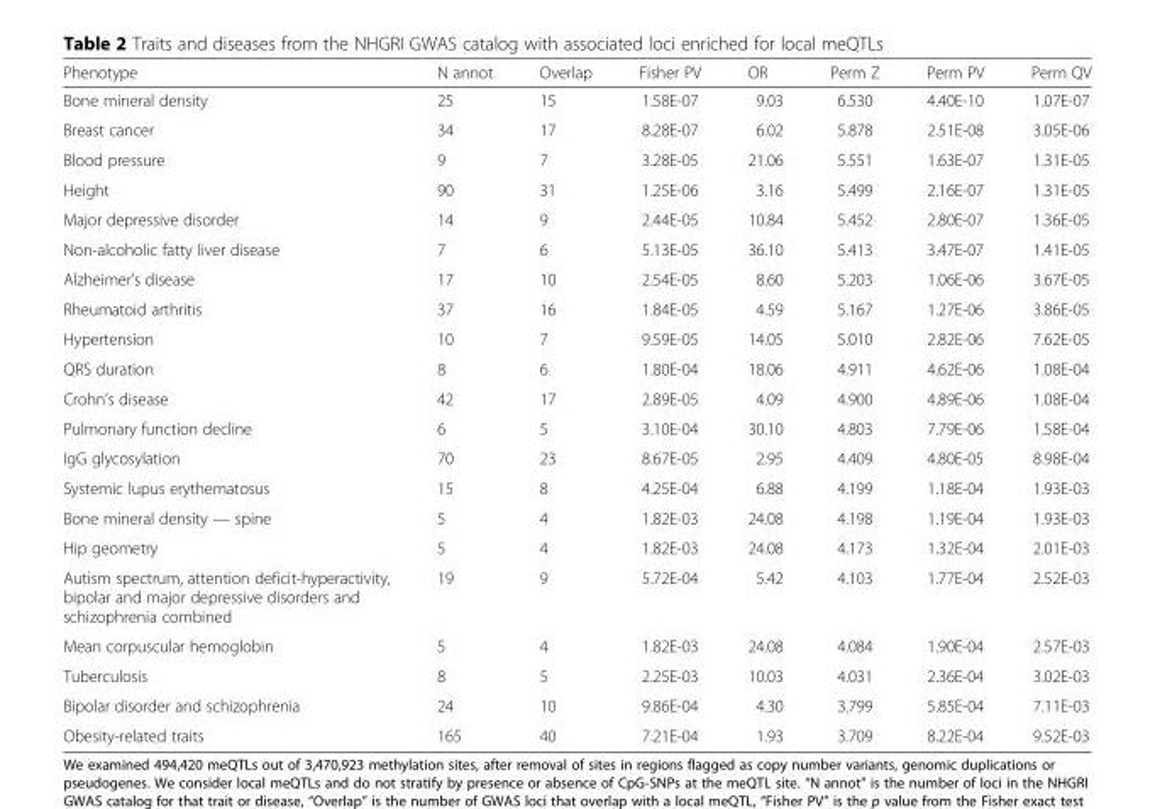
<table><thead><tr><td>Phenotype</td><td>N annot</td><td>Overlap</td><td>Fisher PV</td><td>OR</td><td>Perm Z</td><td>Perm PV</td><td>Perm QV</td></tr></thead><tbody><tr><td>Bone mineral density</td><td>25</td><td>15</td><td>1.58E-07</td><td>9.03</td><td>6.530</td><td>4.40E-10</td><td>1.07E-07</td></tr><tr><td>Breast cancer</td><td>34</td><td>17</td><td>8.28E-07</td><td>6.02</td><td>5.878</td><td>2.51E-08</td><td>3.05E-06</td></tr><tr><td>Blood pressure</td><td>9</td><td>7</td><td>3.28E-05</td><td>21.06</td><td>5.551</td><td>1.63E-07</td><td>1.31E-05</td></tr><tr><td>Height</td><td>90</td><td>31</td><td>1.25E-06</td><td>3.16</td><td>5.499</td><td>2.16E-07</td><td>1.31E-05</td></tr><tr><td>Major depressive disorder</td><td>14</td><td>9</td><td>2.44E-05</td><td>10.84</td><td>5.452</td><td>2.80E-07</td><td>1.36E-05</td></tr><tr><td>Non-alcoholic fatty liver disease</td><td>7</td><td>6</td><td>5.13E-05</td><td>36.10</td><td>5.413</td><td>3.47E-07</td><td>1.41E-05</td></tr><tr><td>Alzheimer’s disease</td><td>17</td><td>10</td><td>2.54E-05</td><td>8.60</td><td>5.203</td><td>1.06E-06</td><td>3.67E-05</td></tr><tr><td>Rheumatoid arthritis</td><td>37</td><td>16</td><td>1.84E-05</td><td>4.59</td><td>5.167</td><td>1.27E-06</td><td>3.86E-05</td></tr><tr><td>Hypertension</td><td>10</td><td>7</td><td>9.59E-05</td><td>14.05</td><td>5.010</td><td>2.82E-06</td><td>7.62E-05</td></tr><tr><td>QRS duration</td><td>8</td><td>6</td><td>1.80E-04</td><td>18.06</td><td>4.911</td><td>4.62E-06</td><td>1.08E-04</td></tr><tr><td>Crohn’s disease</td><td>42</td><td>17</td><td>2.89E-05</td><td>4.09</td><td>4.900</td><td>4.89E-06</td><td>1.08E-04</td></tr><tr><td>Pulmonary function decline</td><td>6</td><td>5</td><td>3.10E-04</td><td>30.10</td><td>4.803</td><td>7.79E-06</td><td>1.58E-04</td></tr><tr><td>IgG glycosylation</td><td>70</td><td>23</td><td>8.67E-05</td><td>2.95</td><td>4.409</td><td>4.80E-05</td><td>8.98E-04</td></tr><tr><td>Systemic lupus erythematosus</td><td>15</td><td>8</td><td>4.25E-04</td><td>6.88</td><td>4.199</td><td>1.18E-04</td><td>1.93E-03</td></tr><tr><td>Bone mineral density — spine</td><td>5</td><td>4</td><td>1.82E-03</td><td>24.08</td><td>4.198</td><td>1.19E-04</td><td>1.93E-03</td></tr><tr><td>Hip geometry</td><td>5</td><td>4</td><td>1.82E-03</td><td>24.08</td><td>4.173</td><td>1.32E-04</td><td>2.01E-03</td></tr><tr><td>Autism spectrum, attention deficit-hyperactivity, bipolar and major depressive disorders and schizophrenia combined</td><td>19</td><td>9</td><td>5.72E-04</td><td>5.42</td><td>4.103</td><td>1.77E-04</td><td>2.52E-03</td></tr><tr><td>Mean corpuscular hemoglobin</td><td>5</td><td>4</td><td>1.82E-03</td><td>24.08</td><td>4.084</td><td>1.90E-04</td><td>2.57E-03</td></tr><tr><td>Tuberculosis</td><td>8</td><td>5</td><td>2.25E-03</td><td>10.03</td><td>4.031</td><td>2.36E-04</td><td>3.02E-03</td></tr><tr><td>Bipolar disorder and schizophrenia</td><td>24</td><td>10</td><td>9.86E-04</td><td>4.30</td><td>3.799</td><td>5.85E-04</td><td>7.11E-03</td></tr><tr><td>Obesity-related traits</td><td>165</td><td>40</td><td>7.21E-04</td><td>1.93</td><td>3.709</td><td>8.22E-04</td><td>9.52E-03</td></tr></tbody></table>